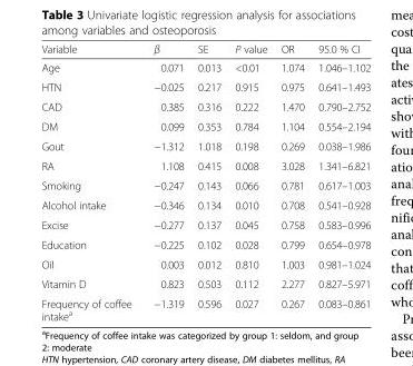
<table><thead><tr><td>Variable</td><td>β</td><td>SE</td><td>P value</td><td>OR</td><td>95.0 % CI</td></tr></thead><tbody><tr><td>Age</td><td>0.071</td><td>0.013</td><td>&lt;0.01</td><td>1.074</td><td>1.046–1.102</td></tr><tr><td>HTN</td><td>−0.025</td><td>0.217</td><td>0.915</td><td>0.975</td><td>0.641–1.493</td></tr><tr><td>CAD</td><td>0.385</td><td>0.316</td><td>0.222</td><td>1.470</td><td>0.790–2.752</td></tr><tr><td>DM</td><td>0.099</td><td>0.353</td><td>0.784</td><td>1.104</td><td>0.554–2.194</td></tr><tr><td>Gout</td><td>−1.312</td><td>1.018</td><td>0.198</td><td>0.269</td><td>0.038–1.986</td></tr><tr><td>RA</td><td>1.108</td><td>0.415</td><td>0.008</td><td>3.028</td><td>1.341–6.821</td></tr><tr><td>Smoking</td><td>−0.247</td><td>0.143</td><td>0.066</td><td>0.781</td><td>0.617–1.003</td></tr><tr><td>Alcohol intake</td><td>−0.346</td><td>0.134</td><td>0.010</td><td>0.708</td><td>0.541–0.928</td></tr><tr><td>Excise</td><td>−0.277</td><td>0.137</td><td>0.045</td><td>0.758</td><td>0.583–0.996</td></tr><tr><td>Education</td><td>−0.225</td><td>0.102</td><td>0.028</td><td>0.799</td><td>0.654–0.978</td></tr><tr><td>Oil</td><td>0.003</td><td>0.012</td><td>0.810</td><td>1.003</td><td>0.981–1.024</td></tr><tr><td>Vitamin D</td><td>0.823</td><td>0.503</td><td>0.112</td><td>2.277</td><td>0.827–5.971</td></tr><tr><td>Frequency of coffee intake<sup>a</sup></td><td>−1.319</td><td>0.596</td><td>0.027</td><td>0.267</td><td>0.083–0.861</td></tr></tbody></table>